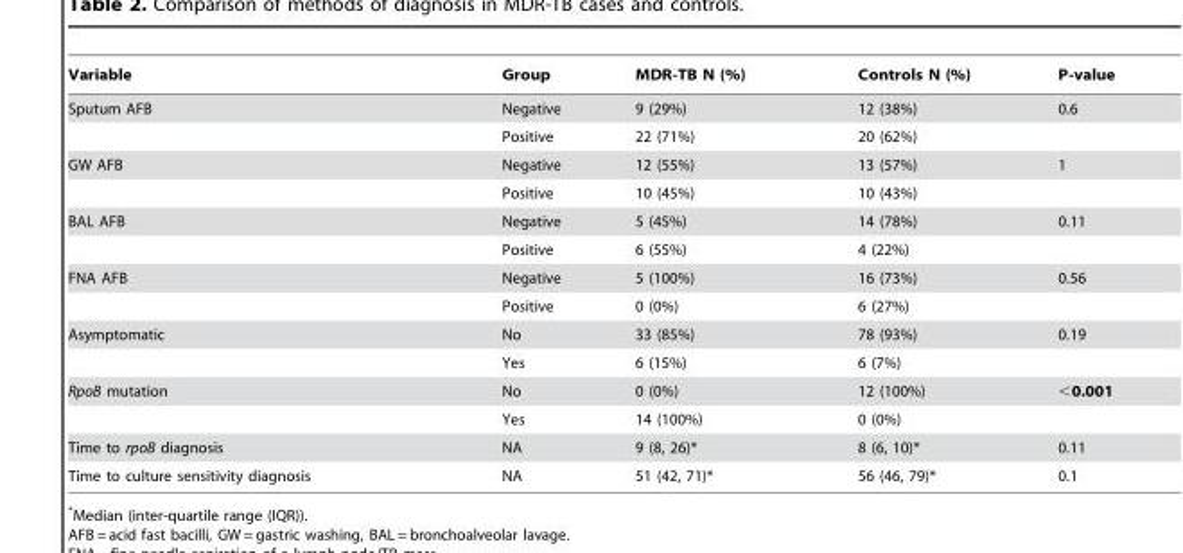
<table><thead><tr><td>Variable</td><td>Group</td><td>MDR-TB N (%)</td><td>Controls N (%)</td><td>P-value</td></tr></thead><tbody><tr><td rowspan="2">Sputum AFB</td><td>Negative</td><td>9 (29%)</td><td>12 (38%)</td><td>0.6</td></tr><tr><td>Positive</td><td>22 (71%)</td><td>20 (62%)</td><td></td></tr><tr><td rowspan="2">GW AFB</td><td>Negative</td><td>12 (55%)</td><td>13 (57%)</td><td>1</td></tr><tr><td>Positive</td><td>10 (45%)</td><td>10 (43%)</td><td></td></tr><tr><td rowspan="2">BAL AFB</td><td>Negative</td><td>5 (45%)</td><td>14 (78%)</td><td>0.11</td></tr><tr><td>Positive</td><td>6 (55%)</td><td>4 (22%)</td><td></td></tr><tr><td rowspan="2">FNA AFB</td><td>Negative</td><td>5 (100%)</td><td>16 (73%)</td><td>0.56</td></tr><tr><td>Positive</td><td>0 (0%)</td><td>6 (27%)</td><td></td></tr><tr><td rowspan="2">Asymptomatic</td><td>No</td><td>33 (85%)</td><td>78 (93%)</td><td>0.19</td></tr><tr><td>Yes</td><td>6 (15%)</td><td>6 (7%)</td><td></td></tr><tr><td rowspan="2">RpoB mutation</td><td>No</td><td>0 (0%)</td><td>12 (100%)</td><td>&lt;0.001</td></tr><tr><td>Yes</td><td>14 (100%)</td><td>0 (0%)</td><td></td></tr><tr><td>Time to rpoB diagnosis</td><td>NA</td><td>9 (8, 26)*</td><td>8 (6, 10)*</td><td>0.11</td></tr><tr><td>Time to culture sensitivity diagnosis</td><td>NA</td><td>51 (42, 71)*</td><td>56 (46, 79)*</td><td>0.1</td></tr></tbody></table>